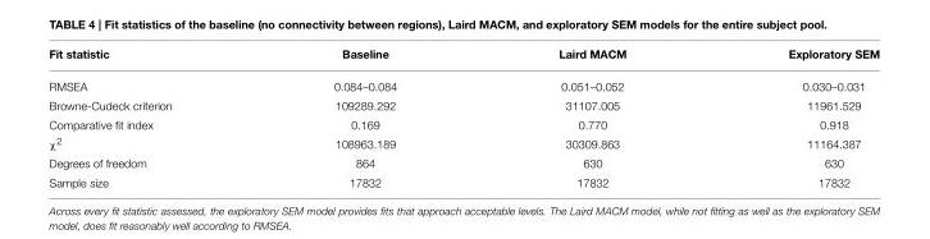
<table><thead><tr><td>Fit statistic</td><td>Baseline</td><td>Laird MACM</td><td>Exploratory SEM</td></tr></thead><tbody><tr><td>RMSEA</td><td>0.084–0.084</td><td>0.051–0.052</td><td>0.030–0.031</td></tr><tr><td>Browne-Cudeck criterion</td><td>109289.292</td><td>31107.005</td><td>11961.529</td></tr><tr><td>Comparative fit index</td><td>0.169</td><td>0.770</td><td>0.918</td></tr><tr><td>χ<sup>2</sup></td><td>108963.189</td><td>30309.863</td><td>11164.387</td></tr><tr><td>Degrees of freedom</td><td>864</td><td>630</td><td>630</td></tr><tr><td>Sample size</td><td>17832</td><td>17832</td><td>17832</td></tr></tbody></table>